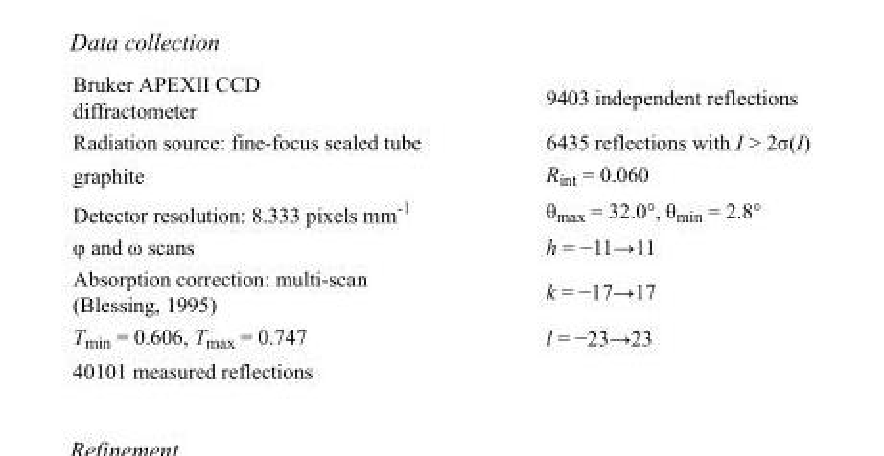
<table><tbody><tr><td>Bruker APEXII CCD diffractometer</td><td>9403 independent reflections</td></tr><tr><td>Radiation source: fine-focus sealed tube</td><td>6435 reflections with I &gt; 2σ(I)</td></tr><tr><td>graphite</td><td>R<sub>int</sub> = 0.060</td></tr><tr><td>Detector resolution: 8.333 pixels mm<sup>-1</sup></td><td>θ<sub>max</sub> = 32.0°, θ<sub>min</sub> = 2.8°</td></tr><tr><td>φ and ω scans</td><td>h = −11→11</td></tr><tr><td>Absorption correction: multi-scan (Blessing, 1995)</td><td>k = −17→17</td></tr><tr><td>T<sub>min</sub> = 0.606, T<sub>max</sub> = 0.747</td><td>l = −23→23</td></tr><tr><td>40101 measured reflections</td><td></td></tr></tbody></table>